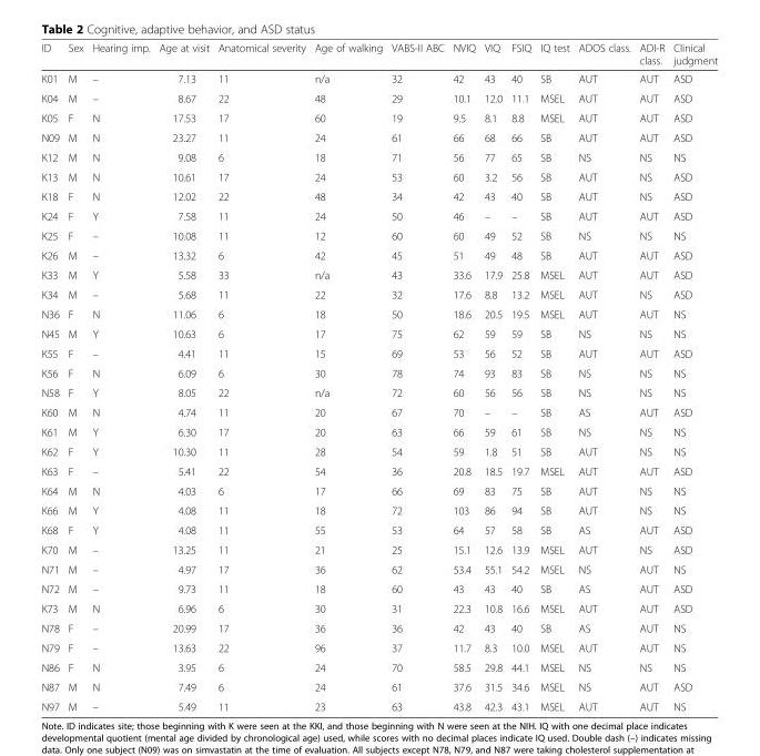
<table><thead><tr><td>ID</td><td>Sex</td><td>Hearing imp.</td><td>Age at visit</td><td>Anatomical severity</td><td>Age of walking</td><td>VABS-II ABC</td><td>NVIQ</td><td>VIQ</td><td>FSIQ</td><td>IQ test</td><td>ADOS class.</td><td>ADI-R class.</td><td>Clinical judgment</td></tr></thead><tbody><tr><td>K01</td><td>M</td><td>–</td><td>7.13</td><td>11</td><td>n/a</td><td>32</td><td>42</td><td>43</td><td>40</td><td>SB</td><td>AUT</td><td>AUT</td><td>ASD</td></tr><tr><td>K04</td><td>M</td><td>–</td><td>8.67</td><td>22</td><td>48</td><td>29</td><td>10.1</td><td>12.0</td><td>11.1</td><td>MSEL</td><td>AUT</td><td>AUT</td><td>ASD</td></tr><tr><td>K05</td><td>F</td><td>N</td><td>17.53</td><td>17</td><td>60</td><td>19</td><td>9.5</td><td>8.1</td><td>8.8</td><td>MSEL</td><td>AUT</td><td>AUT</td><td>ASD</td></tr><tr><td>N09</td><td>M</td><td>N</td><td>23.27</td><td>11</td><td>24</td><td>61</td><td>66</td><td>68</td><td>66</td><td>SB</td><td>AUT</td><td>AUT</td><td>ASD</td></tr><tr><td>K12</td><td>M</td><td>N</td><td>9.08</td><td>6</td><td>18</td><td>71</td><td>56</td><td>77</td><td>65</td><td>SB</td><td>NS</td><td>NS</td><td>NS</td></tr><tr><td>K13</td><td>M</td><td>N</td><td>10.61</td><td>17</td><td>24</td><td>53</td><td>60</td><td>3.2</td><td>56</td><td>SB</td><td>AUT</td><td>NS</td><td>ASD</td></tr><tr><td>K18</td><td>F</td><td>N</td><td>12.02</td><td>22</td><td>48</td><td>34</td><td>42</td><td>43</td><td>40</td><td>SB</td><td>AUT</td><td>NS</td><td>ASD</td></tr><tr><td>K24</td><td>F</td><td>Y</td><td>7.58</td><td>11</td><td>24</td><td>50</td><td>46</td><td>–</td><td>–</td><td>SB</td><td>AUT</td><td>AUT</td><td>ASD</td></tr><tr><td>K25</td><td>F</td><td>–</td><td>10.08</td><td>11</td><td>12</td><td>60</td><td>60</td><td>49</td><td>52</td><td>SB</td><td>NS</td><td>NS</td><td>NS</td></tr><tr><td>K26</td><td>M</td><td>–</td><td>13.32</td><td>6</td><td>42</td><td>45</td><td>51</td><td>49</td><td>48</td><td>SB</td><td>AUT</td><td>AUT</td><td>ASD</td></tr><tr><td>K33</td><td>M</td><td>Y</td><td>5.58</td><td>33</td><td>n/a</td><td>43</td><td>33.6</td><td>17.9</td><td>25.8</td><td>MSEL</td><td>AUT</td><td>AUT</td><td>ASD</td></tr><tr><td>K34</td><td>M</td><td>–</td><td>5.68</td><td>11</td><td>22</td><td>32</td><td>17.6</td><td>8.8</td><td>13.2</td><td>MSEL</td><td>AUT</td><td>NS</td><td>ASD</td></tr><tr><td>N36</td><td>F</td><td>N</td><td>11.06</td><td>6</td><td>18</td><td>50</td><td>18.6</td><td>20.5</td><td>19.5</td><td>MSEL</td><td>AUT</td><td>AUT</td><td>NS</td></tr><tr><td>N45</td><td>M</td><td>Y</td><td>10.63</td><td>6</td><td>17</td><td>75</td><td>62</td><td>59</td><td>59</td><td>SB</td><td>NS</td><td>NS</td><td>NS</td></tr><tr><td>K55</td><td>F</td><td>–</td><td>4.41</td><td>11</td><td>15</td><td>69</td><td>53</td><td>56</td><td>52</td><td>SB</td><td>AUT</td><td>AUT</td><td>ASD</td></tr><tr><td>K56</td><td>F</td><td>N</td><td>6.09</td><td>6</td><td>30</td><td>78</td><td>74</td><td>93</td><td>83</td><td>SB</td><td>NS</td><td>NS</td><td>NS</td></tr><tr><td>N58</td><td>F</td><td>Y</td><td>8.05</td><td>22</td><td>n/a</td><td>72</td><td>60</td><td>56</td><td>56</td><td>SB</td><td>NS</td><td>NS</td><td>NS</td></tr><tr><td>K60</td><td>M</td><td>N</td><td>4.74</td><td>11</td><td>20</td><td>67</td><td>70</td><td>–</td><td>–</td><td>SB</td><td>AS</td><td>AUT</td><td>ASD</td></tr><tr><td>K61</td><td>M</td><td>Y</td><td>6.30</td><td>17</td><td>20</td><td>63</td><td>66</td><td>59</td><td>61</td><td>SB</td><td>NS</td><td>NS</td><td>NS</td></tr><tr><td>K62</td><td>F</td><td>Y</td><td>10.30</td><td>11</td><td>28</td><td>54</td><td>59</td><td>1.8</td><td>51</td><td>SB</td><td>AUT</td><td>NS</td><td>NS</td></tr><tr><td>K63</td><td>F</td><td>–</td><td>5.41</td><td>22</td><td>54</td><td>36</td><td>20.8</td><td>18.5</td><td>19.7</td><td>MSEL</td><td>AUT</td><td>AUT</td><td>ASD</td></tr><tr><td>K64</td><td>M</td><td>N</td><td>4.03</td><td>6</td><td>17</td><td>66</td><td>69</td><td>83</td><td>75</td><td>SB</td><td>AUT</td><td>NS</td><td>NS</td></tr><tr><td>K66</td><td>M</td><td>Y</td><td>4.08</td><td>11</td><td>18</td><td>72</td><td>103</td><td>86</td><td>94</td><td>SB</td><td>AUT</td><td>NS</td><td>NS</td></tr><tr><td>K68</td><td>F</td><td>Y</td><td>4.08</td><td>11</td><td>55</td><td>53</td><td>64</td><td>57</td><td>58</td><td>SB</td><td>AS</td><td>AUT</td><td>ASD</td></tr><tr><td>K70</td><td>M</td><td>–</td><td>13.25</td><td>11</td><td>21</td><td>25</td><td>15.1</td><td>12.6</td><td>13.9</td><td>MSEL</td><td>AUT</td><td>NS</td><td>ASD</td></tr><tr><td>N71</td><td>M</td><td>–</td><td>4.97</td><td>17</td><td>36</td><td>62</td><td>53.4</td><td>55.1</td><td>54.2</td><td>MSEL</td><td>NS</td><td>AUT</td><td>NS</td></tr><tr><td>N72</td><td>M</td><td>–</td><td>9.73</td><td>11</td><td>18</td><td>60</td><td>43</td><td>43</td><td>40</td><td>SB</td><td>AS</td><td>AUT</td><td>ASD</td></tr><tr><td>K73</td><td>M</td><td>N</td><td>6.96</td><td>6</td><td>30</td><td>31</td><td>22.3</td><td>10.8</td><td>16.6</td><td>MSEL</td><td>AUT</td><td>AUT</td><td>ASD</td></tr><tr><td>N78</td><td>F</td><td>–</td><td>20.99</td><td>17</td><td>36</td><td>36</td><td>42</td><td>43</td><td>40</td><td>SB</td><td>AS</td><td>AUT</td><td>NS</td></tr><tr><td>N79</td><td>F</td><td>–</td><td>13.63</td><td>22</td><td>96</td><td>37</td><td>11.7</td><td>8.3</td><td>10.0</td><td>MSEL</td><td>AUT</td><td>AUT</td><td>NS</td></tr><tr><td>N86</td><td>F</td><td>N</td><td>3.95</td><td>6</td><td>24</td><td>70</td><td>58.5</td><td>29.8</td><td>44.1</td><td>MSEL</td><td>NS</td><td>NS</td><td>NS</td></tr><tr><td>N87</td><td>M</td><td>N</td><td>7.49</td><td>6</td><td>24</td><td>61</td><td>37.6</td><td>31.5</td><td>34.6</td><td>MSEL</td><td>NS</td><td>AUT</td><td>ASD</td></tr><tr><td>N97</td><td>M</td><td>–</td><td>5.49</td><td>11</td><td>23</td><td>63</td><td>43.8</td><td>42.3</td><td>43.1</td><td>MSEL</td><td>AUT</td><td>AUT</td><td>NS</td></tr></tbody></table>